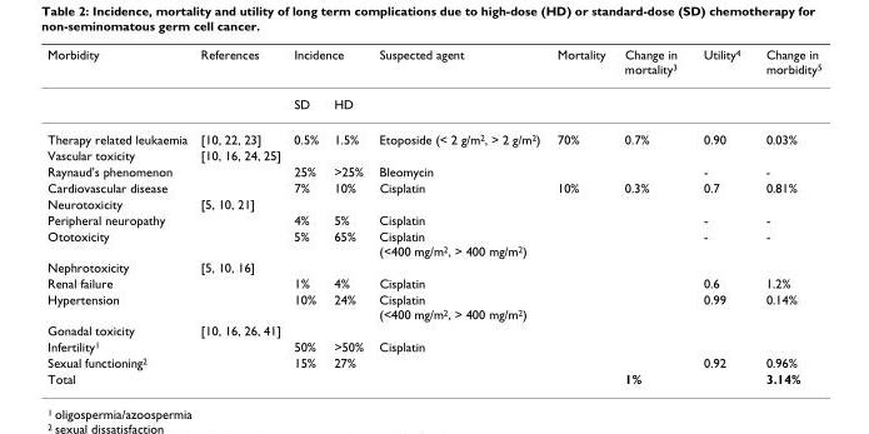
<table><thead><tr><td rowspan="2">Morbidity</td><td rowspan="2">References</td><td colspan="2">Incidence</td><td rowspan="2">Suspected agent</td><td rowspan="2">Mortality</td><td rowspan="2">Change in mortality<sup>3</sup></td><td rowspan="2">Utility<sup>4</sup></td><td rowspan="2">Change in morbidity<sup>5</sup></td></tr><tr><td>SD</td><td>HD</td></tr></thead><tbody><tr><td>Therapy related leukaemia</td><td>[10, 22, 23]</td><td>0.5%</td><td>1.5%</td><td>Etoposide (&lt; 2 g/m<sup>2</sup>, &gt; 2 g/m<sup>2</sup>)</td><td>70%</td><td>0.7%</td><td>0.90</td><td>0.03%</td></tr><tr><td>Vascular toxicity</td><td>[10, 16, 24, 25]</td><td></td><td></td><td></td><td></td><td></td><td></td><td></td></tr><tr><td>Raynaud&#x27;s phenomenon</td><td></td><td>25%</td><td>&gt;25%</td><td>Bleomycin</td><td></td><td></td><td>-</td><td>-</td></tr><tr><td>Cardiovascular disease</td><td></td><td>7%</td><td>10%</td><td>Cisplatin</td><td>10%</td><td>0.3%</td><td>0.7</td><td>0.81%</td></tr><tr><td>Neurotoxicity</td><td>[5, 10, 21]</td><td></td><td></td><td></td><td></td><td></td><td></td><td></td></tr><tr><td>Peripheral neuropathy</td><td></td><td>4%</td><td>5%</td><td>Cisplatin</td><td></td><td></td><td>-</td><td>-</td></tr><tr><td>Ototoxicity</td><td></td><td>5%</td><td>65%</td><td>Cisplatin (&lt;400 mg/m<sup>2</sup>, &gt; 400 mg/m<sup>2</sup>)</td><td></td><td></td><td>-</td><td>-</td></tr><tr><td>Nephrotoxicity</td><td>[5, 10, 16]</td><td></td><td></td><td></td><td></td><td></td><td></td><td></td></tr><tr><td>Renal failure</td><td></td><td>1%</td><td>4%</td><td>Cisplatin</td><td></td><td></td><td>0.6</td><td>1.2%</td></tr><tr><td>Hypertension</td><td></td><td>10%</td><td>24%</td><td>Cisplatin (&lt;400 mg/m<sup>2</sup>, &gt; 400 mg/m<sup>2</sup>)</td><td></td><td></td><td>0.99</td><td>0.14%</td></tr><tr><td>Gonadal toxicity</td><td>[10, 16, 26, 41]</td><td></td><td></td><td></td><td></td><td></td><td></td><td></td></tr><tr><td>Infertility<sup>1</sup></td><td></td><td>50%</td><td>&gt;50%</td><td>Cisplatin</td><td></td><td></td><td></td><td></td></tr><tr><td>Sexual functioning<sup>2</sup></td><td></td><td>15%</td><td>27%</td><td></td><td></td><td></td><td>0.92</td><td>0.96%</td></tr><tr><td>Total</td><td></td><td></td><td></td><td></td><td></td><td>1%</td><td></td><td>3.14%</td></tr></tbody></table>